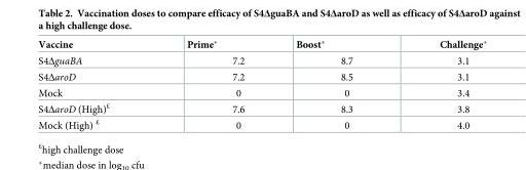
<table><thead><tr><td>Vaccine</td><td>Prime*</td><td>Boost*</td><td>Challenge*</td></tr></thead><tbody><tr><td>S4ΔguaBA</td><td>7.2</td><td>8.7</td><td>3.1</td></tr><tr><td>S4ΔaroD</td><td>7.2</td><td>8.5</td><td>3.1</td></tr><tr><td>Mock</td><td>0</td><td>0</td><td>3.4</td></tr><tr><td>S4ΔaroD (High)<sup>£</sup></td><td>7.6</td><td>8.3</td><td>3.8</td></tr><tr><td>Mock (High) <sup>£</sup></td><td>0</td><td>0</td><td>4.0</td></tr></tbody></table>